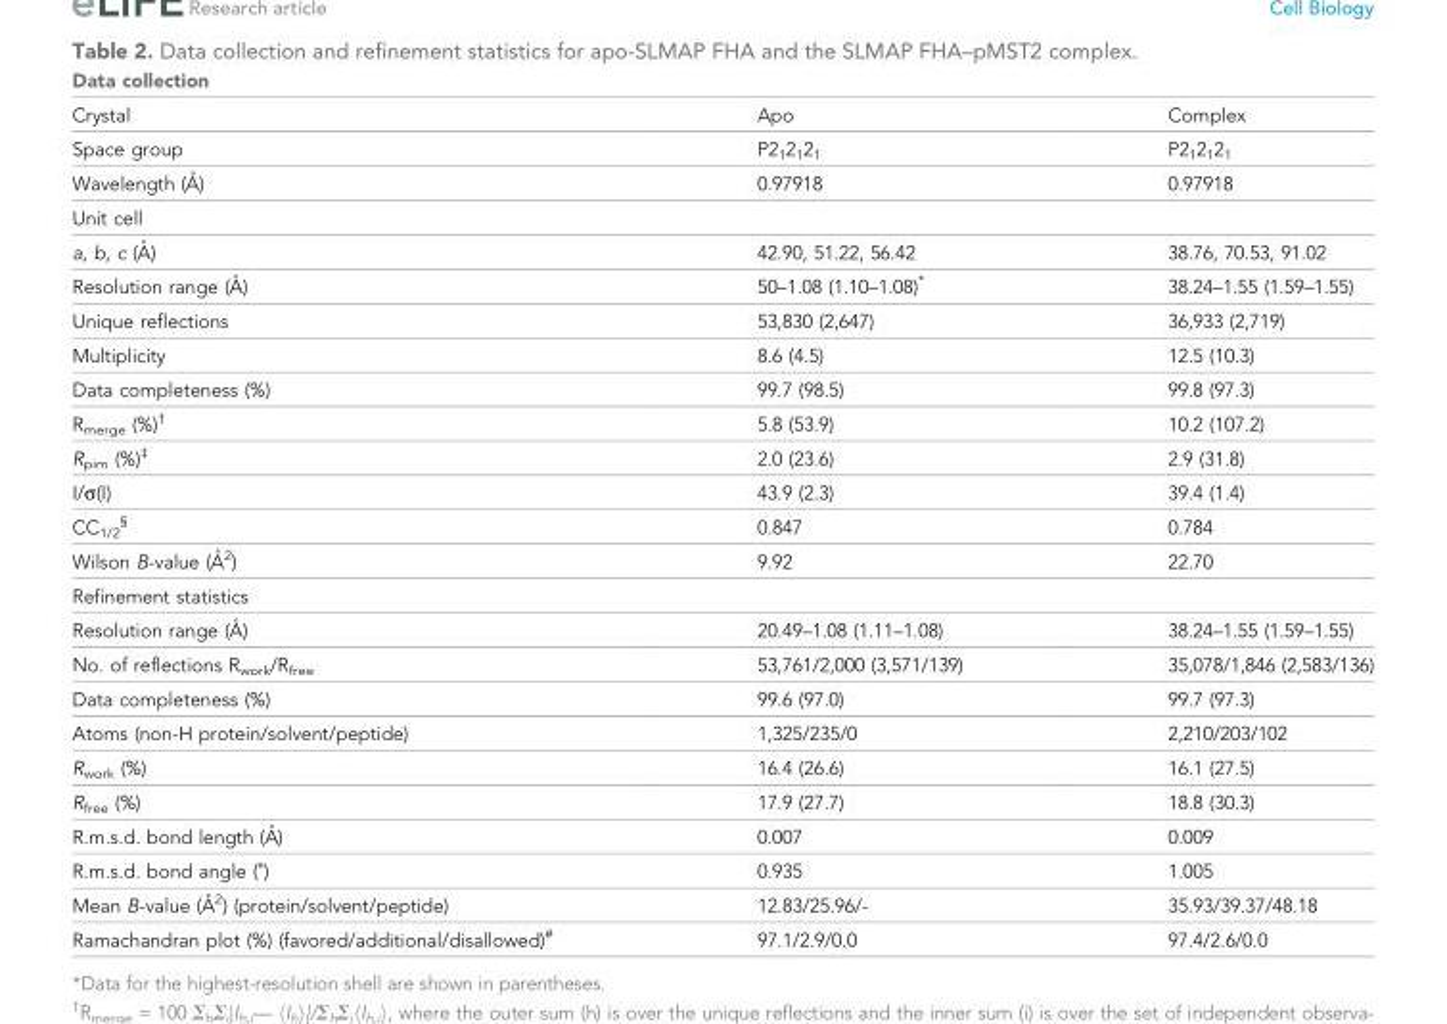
<table><thead><tr><td>Data collection</td><td></td><td></td></tr></thead><tbody><tr><td>Crystal</td><td>Apo</td><td>Complex</td></tr><tr><td>Space group</td><td>P2<sub>1</sub>2<sub>1</sub>2<sub>1</sub></td><td>P2<sub>1</sub>2<sub>1</sub>2<sub>1</sub></td></tr><tr><td>Wavelength (A˚ )</td><td>0.97918</td><td>0.97918</td></tr><tr><td colspan="3">Unit cell</td></tr><tr><td>a, b, c (A˚ )</td><td>42.90, 51.22, 56.42</td><td>38.76, 70.53, 91.02</td></tr><tr><td>Resolution range (A˚ )</td><td>50–1.08 (1.10–1.08)*</td><td>38.24–1.55 (1.59–1.55)</td></tr><tr><td>Unique reflections</td><td>53,830 (2,647)</td><td>36,933 (2,719)</td></tr><tr><td>Multiplicity</td><td>8.6 (4.5)</td><td>12.5 (10.3)</td></tr><tr><td>Data completeness (%)</td><td>99.7 (98.5)</td><td>99.8 (97.3)</td></tr><tr><td>R<sub>merge</sub> (%)<sup>†</sup></td><td>5.8 (53.9)</td><td>10.2 (107.2)</td></tr><tr><td>R<sub>pim</sub> (%)<sup>‡</sup></td><td>2.0 (23.6)</td><td>2.9 (31.8)</td></tr><tr><td>I/σ(I)</td><td>43.9 (2.3)</td><td>39.4 (1.4)</td></tr><tr><td>CC<sub>1/2 </sub><sup><sub>§</sub></sup></td><td>0.847</td><td>0.784</td></tr><tr><td>Wilson B-value (A˚ 2)</td><td>9.92</td><td>22.70</td></tr><tr><td colspan="3">Refinement statistics</td></tr><tr><td>Resolution range (A˚ )</td><td>20.49–1.08 (1.11–1.08)</td><td>38.24–1.55 (1.59–1.55)</td></tr><tr><td>No. of reflections R<sub>work</sub>/R<sub>free</sub></td><td>53,761/2,000 (3,571/139)</td><td>35,078/1,846 (2,583/136)</td></tr><tr><td>Data completeness (%)</td><td>99.6 (97.0)</td><td>99.7 (97.3)</td></tr><tr><td>Atoms (non-H protein/solvent/peptide)</td><td>1,325/235/0</td><td>2,210/203/102</td></tr><tr><td>R<sub>work</sub> (%)</td><td>16.4 (26.6)</td><td>16.1 (27.5)</td></tr><tr><td>R<sub>free</sub> (%)</td><td>17.9 (27.7)</td><td>18.8 (30.3)</td></tr><tr><td>R.m.s.d. bond length (A˚ )</td><td>0.007</td><td>0.009</td></tr><tr><td>R.m.s.d. bond angle (˚)</td><td>0.935</td><td>1.005</td></tr><tr><td>Mean B-value (A˚ 2) (protein/solvent/peptide)</td><td>12.83/25.96/-</td><td>35.93/39.37/48.18</td></tr><tr><td>Ramachandran plot (%) (favored/additional/disallowed)<sup>#</sup></td><td>97.1/2.9/0.0</td><td>97.4/2.6/0.0</td></tr></tbody></table>